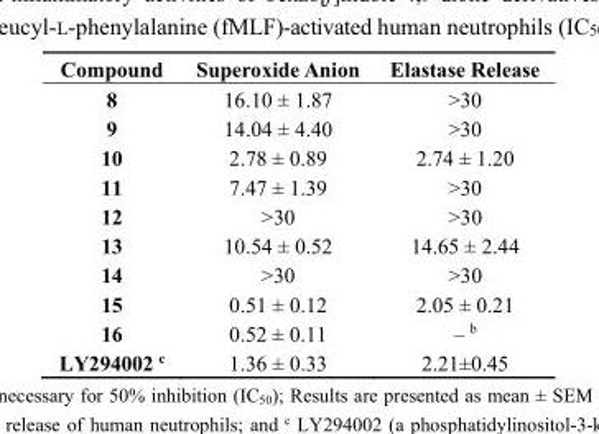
<table><thead><tr><td>Compound</td><td>Superoxide Anion</td><td>Elastase Release</td></tr></thead><tbody><tr><td>8</td><td>16.10 ± 1.87</td><td>&gt;30</td></tr><tr><td>9</td><td>14.04 ± 4.40</td><td>&gt;30</td></tr><tr><td>10</td><td>2.78 ± 0.89</td><td>2.74 ± 1.20</td></tr><tr><td>11</td><td>7.47 ± 1.39</td><td>&gt;30</td></tr><tr><td>12</td><td>&gt;30</td><td>&gt;30</td></tr><tr><td>13</td><td>10.54 ± 0.52</td><td>14.65 ± 2.44</td></tr><tr><td>14</td><td>&gt;30</td><td>&gt;30</td></tr><tr><td>15</td><td>0.51 ± 0.12</td><td>2.05 ± 0.21</td></tr><tr><td>16</td><td>0.52 ± 0.11</td><td>– <sup>b</sup></td></tr><tr><td>LY294002 <sup>c</sup></td><td>1.36 ± 0.33</td><td>2.21±0.45</td></tr></tbody></table>